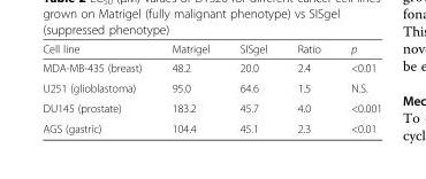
<table><thead><tr><td>Cell line</td><td>Matrigel</td><td>SISgel</td><td>Ratio</td><td>p</td></tr></thead><tbody><tr><td>MDA-MB-435 (breast)</td><td>48.2</td><td>20.0</td><td>2.4</td><td>&lt;0.01</td></tr><tr><td>U251 (glioblastoma)</td><td>95.0</td><td>64.6</td><td>1.5</td><td>N.S.</td></tr><tr><td>DU145 (prostate)</td><td>183.2</td><td>45.7</td><td>4.0</td><td>&lt;0.001</td></tr><tr><td>AGS (gastric)</td><td>104.4</td><td>45.1</td><td>2.3</td><td>&lt;0.01</td></tr></tbody></table>